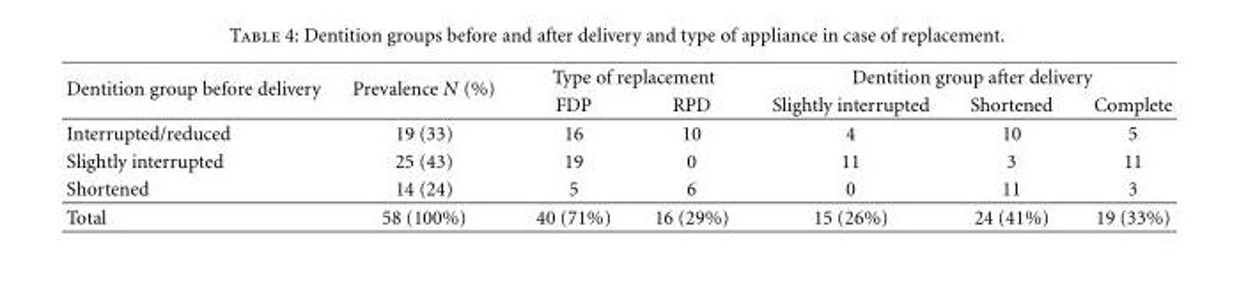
<table><thead><tr><td rowspan="2">Dentition group before delivery</td><td rowspan="2">Prevalence N (%)</td><td colspan="2">Type of replacement</td><td colspan="3">Dentition group after delivery</td></tr><tr><td>FDP</td><td>RPD</td><td>Slightly interrupted</td><td>Shortened</td><td>Complete</td></tr></thead><tbody><tr><td>Interrupted/reduced</td><td>19 (33)</td><td>16</td><td>10</td><td>4</td><td>10</td><td>5</td></tr><tr><td>Slightly interrupted</td><td>25 (43)</td><td>19</td><td>0</td><td>11</td><td>3</td><td>11</td></tr><tr><td>Shortened</td><td>14 (24)</td><td>5</td><td>6</td><td>0</td><td>11</td><td>3</td></tr><tr><td>Total</td><td>58 (100%)</td><td>40 (71%)</td><td>16 (29%)</td><td>15 (26%)</td><td>24 (41%)</td><td>19 (33%)</td></tr></tbody></table>